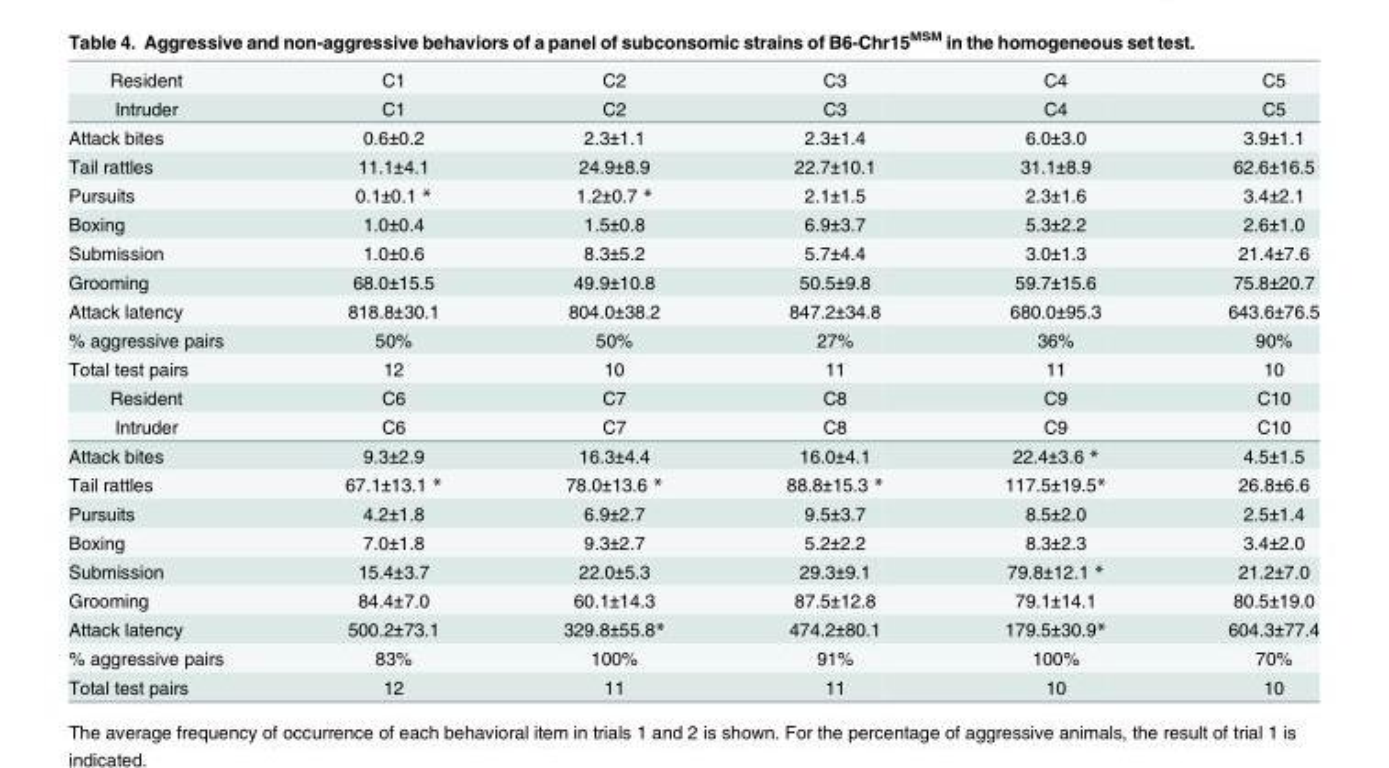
<table><tbody><tr><td>Resident</td><td>C1</td><td>C2</td><td>C3</td><td>C4</td><td>C5</td></tr><tr><td>Intruder</td><td>C1</td><td>C2</td><td>C3</td><td>C4</td><td>C5</td></tr><tr><td>Attack bites</td><td>0.6±0.2</td><td>2.3±1.1</td><td>2.3±1.4</td><td>6.0±3.0</td><td>3.9±1.1</td></tr><tr><td>Tail rattles</td><td>11.1±4.1</td><td>24.9±8.9</td><td>22.7±10.1</td><td>31.1±8.9</td><td>62.6±16.5</td></tr><tr><td>Pursuits</td><td>0.1±0.1 *</td><td>1.2±0.7 *</td><td>2.1±1.5</td><td>2.3±1.6</td><td>3.4±2.1</td></tr><tr><td>Boxing</td><td>1.0±0.4</td><td>1.5±0.8</td><td>6.9±3.7</td><td>5.3±2.2</td><td>2.6±1.0</td></tr><tr><td>Submission</td><td>1.0±0.6</td><td>8.3±5.2</td><td>5.7±4.4</td><td>3.0±1.3</td><td>21.4±7.6</td></tr><tr><td>Grooming</td><td>68.0±15.5</td><td>49.9±10.8</td><td>50.5±9.8</td><td>59.7±15.6</td><td>75.8±20.7</td></tr><tr><td>Attack latency</td><td>818.8±30.1</td><td>804.0±38.2</td><td>847.2±34.8</td><td>680.0±95.3</td><td>643.6±76.5</td></tr><tr><td>% aggressive pairs</td><td>50%</td><td>50%</td><td>27%</td><td>36%</td><td>90%</td></tr><tr><td>Total test pairs</td><td>12</td><td>10</td><td>11</td><td>11</td><td>10</td></tr><tr><td>Resident</td><td>C6</td><td>C7</td><td>C8</td><td>C9</td><td>C10</td></tr><tr><td>Intruder</td><td>C6</td><td>C7</td><td>C8</td><td>C9</td><td>C10</td></tr><tr><td>Attack bites</td><td>9.3±2.9</td><td>16.3±4.4</td><td>16.0±4.1</td><td>22.4±3.6 *</td><td>4.5±1.5</td></tr><tr><td>Tail rattles</td><td>67.1±13.1 *</td><td>78.0±13.6 *</td><td>88.8±15.3 *</td><td>117.5±19.5*</td><td>26.8±6.6</td></tr><tr><td>Pursuits</td><td>4.2±1.8</td><td>6.9±2.7</td><td>9.5±3.7</td><td>8.5±2.0</td><td>2.5±1.4</td></tr><tr><td>Boxing</td><td>7.0±1.8</td><td>9.3±2.7</td><td>5.2±2.2</td><td>8.3±2.3</td><td>3.4±2.0</td></tr><tr><td>Submission</td><td>15.4±3.7</td><td>22.0±5.3</td><td>29.3±9.1</td><td>79.8±12.1 *</td><td>21.2±7.0</td></tr><tr><td>Grooming</td><td>84.4±7.0</td><td>60.1±14.3</td><td>87.5±12.8</td><td>79.1±14.1</td><td>80.5±19.0</td></tr><tr><td>Attack latency</td><td>500.2±73.1</td><td>329.8±55.8*</td><td>474.2±80.1</td><td>179.5±30.9*</td><td>604.3±77.4</td></tr><tr><td>% aggressive pairs</td><td>83%</td><td>100%</td><td>91%</td><td>100%</td><td>70%</td></tr><tr><td>Total test pairs</td><td>12</td><td>11</td><td>11</td><td>10</td><td>10</td></tr></tbody></table>